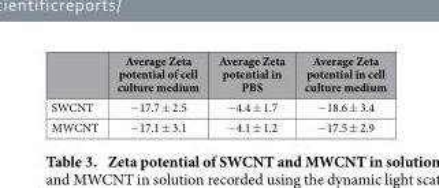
<table><thead><tr><td></td><td>Average Zeta potential of cell culture medium</td><td>Average Zeta potential in PBS</td><td>Average Zeta potential in cell culture medium</td></tr></thead><tbody><tr><td>SWCNT</td><td>− 17.7 ± 2.5</td><td>− 4.4 ± 1.7</td><td>− 18.6 ± 3.4</td></tr><tr><td>MWCNT</td><td>− 17.1 ± 3.1</td><td>− 4.1 ± 1.2</td><td>− 17.5 ± 2.9</td></tr></tbody></table>